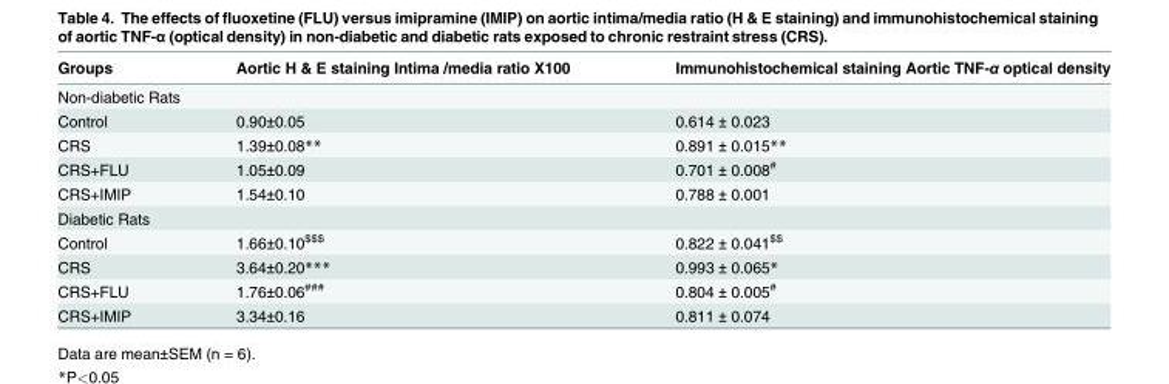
<table><thead><tr><td>Groups</td><td>Aortic H &amp; E staining Intima /media ratio X100</td><td>Immunohistochemical staining Aortic TNF-α optical density</td></tr></thead><tbody><tr><td colspan="3">Non-diabetic Rats</td></tr><tr><td>Control</td><td>0.90±0.05</td><td>0.614 ± 0.023</td></tr><tr><td>CRS</td><td>1.39±0.08**</td><td>0.891 ± 0.015**</td></tr><tr><td>CRS+FLU</td><td>1.05±0.09</td><td>0.701 ± 0.008<sup>#</sup></td></tr><tr><td>CRS+IMIP</td><td>1.54±0.10</td><td>0.788 ± 0.001</td></tr><tr><td colspan="3">Diabetic Rats</td></tr><tr><td>Control</td><td>1.66±0.10<sup>$$$</sup></td><td>0.822 ± 0.041<sup>$$</sup></td></tr><tr><td>CRS</td><td>3.64±0.20***</td><td>0.993 ± 0.065*</td></tr><tr><td>CRS+FLU</td><td>1.76±0.06<sup>###</sup></td><td>0.804 ± 0.005<sup>#</sup></td></tr><tr><td>CRS+IMIP</td><td>3.34±0.16</td><td>0.811 ± 0.074</td></tr></tbody></table>